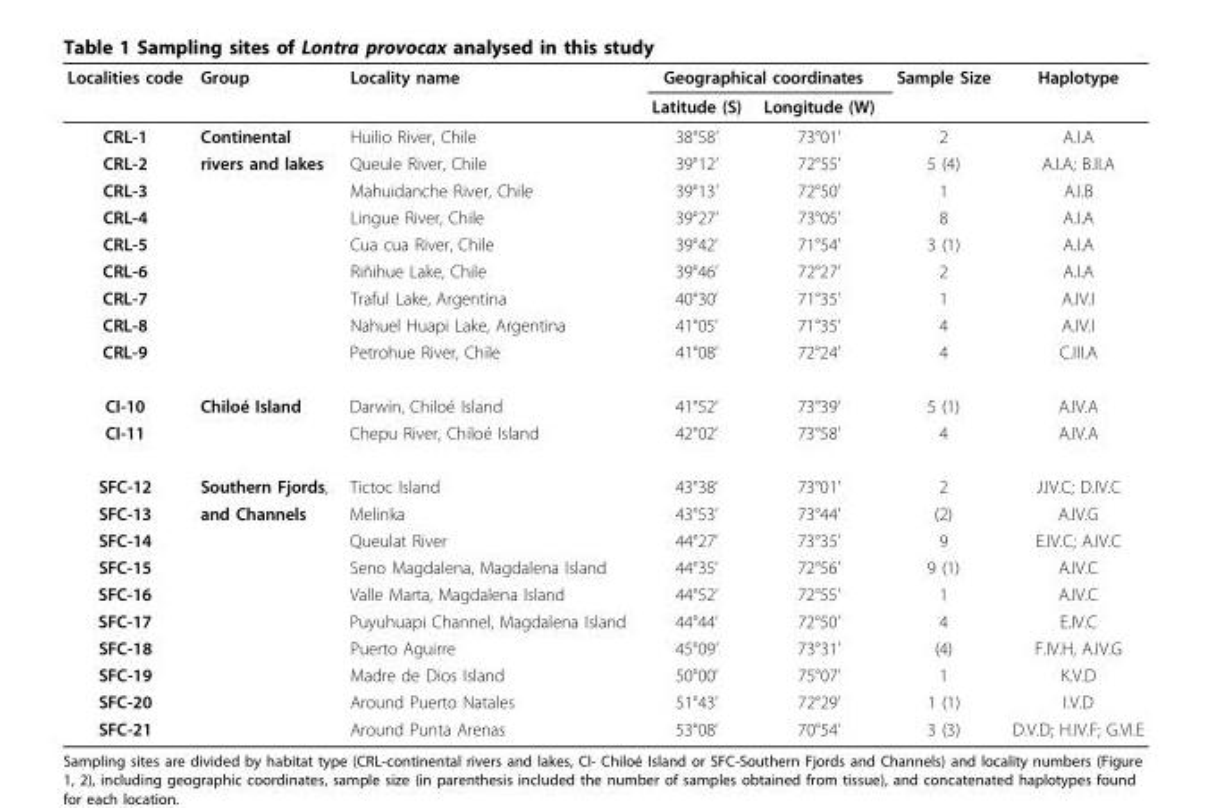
<table><thead><tr><td rowspan="2">Localities code</td><td rowspan="2">Group</td><td rowspan="2">Locality name</td><td colspan="2">Geographical coordinates</td><td rowspan="2">Sample Size</td><td rowspan="2">Haplotype</td></tr><tr><td>Latitude (S)</td><td>Longitude (W)</td></tr></thead><tbody><tr><td>CRL-1</td><td>Continental</td><td>Huilio River, Chile</td><td>38°58’</td><td>73°01’</td><td>2</td><td>A.I.A</td></tr><tr><td>CRL-2</td><td>rivers and lakes</td><td>Queule River, Chile</td><td>39°12’</td><td>72°55’</td><td>5 (4)</td><td>A.I.A; B.II.A</td></tr><tr><td>CRL-3</td><td></td><td>Mahuidanche River, Chile</td><td>39°13’</td><td>72°50’</td><td>1</td><td>A.I.B</td></tr><tr><td>CRL-4</td><td></td><td>Lingue River, Chile</td><td>39°27’</td><td>73°05’</td><td>8</td><td>A.I.A</td></tr><tr><td>CRL-5</td><td></td><td>Cua cua River, Chile</td><td>39°42’</td><td>71°54’</td><td>3 (1)</td><td>A.I.A</td></tr><tr><td>CRL-6</td><td></td><td>Riñihue Lake, Chile</td><td>39°46’</td><td>72°27’</td><td>2</td><td>A.I.A</td></tr><tr><td>CRL-7</td><td></td><td>Traful Lake, Argentina</td><td>40°30’</td><td>71°35’</td><td>1</td><td>A.IV.I</td></tr><tr><td>CRL-8</td><td></td><td>Nahuel Huapi Lake, Argentina</td><td>41°05’</td><td>71°35’</td><td>4</td><td>A.IV.I</td></tr><tr><td>CRL-9</td><td></td><td>Petrohue River, Chile</td><td>41°08’</td><td>72°24’</td><td>4</td><td>C.III.A</td></tr><tr><td>CI-10</td><td>Chiloé Island</td><td>Darwin, Chiloé Island</td><td>41°52’</td><td>73°39’</td><td>5 (1)</td><td>A.IV.A</td></tr><tr><td>CI-11</td><td></td><td>Chepu River, Chiloé Island</td><td>42°02’</td><td>73°58’</td><td>4</td><td>A.IV.A</td></tr><tr><td>SFC-12</td><td>Southern Fjords,</td><td>Tictoc Island</td><td>43°38’</td><td>73°01’</td><td>2</td><td>J.IV.C; D.IV.C</td></tr><tr><td>SFC-13</td><td>and Channels</td><td>Melinka</td><td>43°53’</td><td>73°44’</td><td>(2)</td><td>A.IV.G</td></tr><tr><td>SFC-14</td><td></td><td>Queulat River</td><td>44°27’</td><td>73°35’</td><td>9</td><td>E.IV.C; A.IV.C</td></tr><tr><td>SFC-15</td><td></td><td>Seno Magdalena, Magdalena Island</td><td>44°35’</td><td>72°56’</td><td>9 (1)</td><td>A.IV.C</td></tr><tr><td>SFC-16</td><td></td><td>Valle Marta, Magdalena Island</td><td>44°52’</td><td>72°55’</td><td>1</td><td>A.IV.C</td></tr><tr><td>SFC-17</td><td></td><td>Puyuhuapi Channel, Magdalena Island</td><td>44°44’</td><td>72°50’</td><td>4</td><td>E.IV.C</td></tr><tr><td>SFC-18</td><td></td><td>Puerto Aguirre</td><td>45°09’</td><td>73°31’</td><td>(4)</td><td>F.IV.H, A.IV.G</td></tr><tr><td>SFC-19</td><td></td><td>Madre de Dios Island</td><td>50°00’</td><td>75°07’</td><td>1</td><td>K.V.D</td></tr><tr><td>SFC-20</td><td></td><td>Around Puerto Natales</td><td>51°43’</td><td>72°29’</td><td>1 (1)</td><td>I.V.D</td></tr><tr><td>SFC-21</td><td></td><td>Around Punta Arenas</td><td>53°08’</td><td>70°54’</td><td>3 (3)</td><td>D.V.D; H.IV.F; G.VI.E</td></tr></tbody></table>